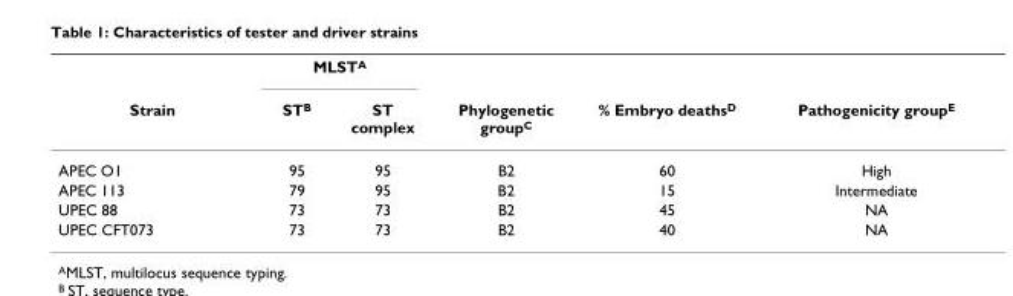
<table><thead><tr><td rowspan="2">Strain</td><td colspan="2">MLST<sup>A</sup></td><td rowspan="2">Phylogenetic group<sup>C</sup></td><td rowspan="2">% Embryo deaths<sup>D</sup></td><td rowspan="2">Pathogenicity group<sup>E</sup></td></tr><tr><td>ST<sup>B</sup></td><td>ST complex</td></tr></thead><tbody><tr><td>APEC O1</td><td>95</td><td>95</td><td>B2</td><td>60</td><td>High</td></tr><tr><td>APEC 113</td><td>79</td><td>95</td><td>B2</td><td>15</td><td>Intermediate</td></tr><tr><td>UPEC 88</td><td>73</td><td>73</td><td>B2</td><td>45</td><td>NA</td></tr><tr><td>UPEC CFT073</td><td>73</td><td>73</td><td>B2</td><td>40</td><td>NA</td></tr></tbody></table>